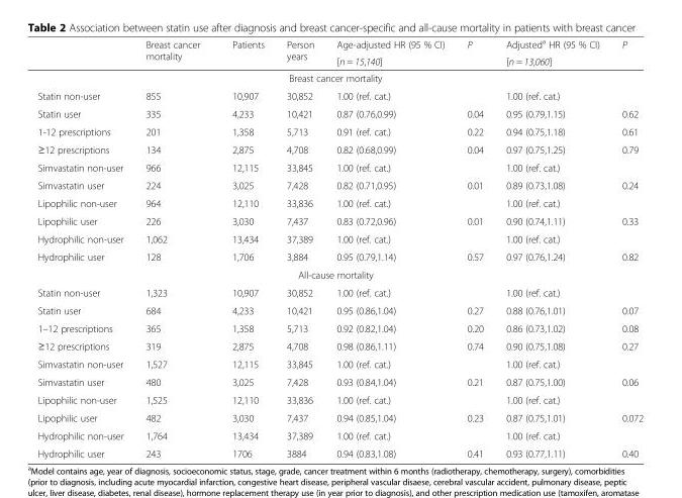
<table><thead><tr><td rowspan="2"></td><td rowspan="2">Breast cancer mortality</td><td rowspan="2">Patients</td><td rowspan="2">Person years</td><td rowspan="2">Age-adjusted HR (95 % CI) [n = 15,140]</td><td rowspan="2">P</td><td rowspan="2">Adjusted<sup>a</sup> HR (95 % CI) [n = 13,060]</td><td rowspan="2">P</td></tr><tr></tr></thead><tbody><tr><td colspan="8">Breast cancer mortality</td></tr><tr><td>Statin non-user</td><td>855</td><td>10,907</td><td>30,852</td><td>1.00 (ref. cat.)</td><td></td><td>1.00 (ref. cat.)</td><td></td></tr><tr><td>Statin user</td><td>335</td><td>4,233</td><td>10,421</td><td>0.87 (0.76,0.99)</td><td>0.04</td><td>0.95 (0.79,1.15)</td><td>0.62</td></tr><tr><td>1-12 prescriptions</td><td>201</td><td>1,358</td><td>5,713</td><td>0.91 (ref. cat.)</td><td>0.22</td><td>0.94 (0.75,1.18)</td><td>0.61</td></tr><tr><td>≥12 prescriptions</td><td>134</td><td>2,875</td><td>4,708</td><td>0.82 (0.68,0.99)</td><td>0.04</td><td>0.97 (0.75,1.25)</td><td>0.79</td></tr><tr><td>Simvastatin non-user</td><td>966</td><td>12,115</td><td>33,845</td><td>1.00 (ref. cat.)</td><td></td><td>1.00 (ref. cat.)</td><td></td></tr><tr><td>Simvastatin user</td><td>224</td><td>3,025</td><td>7,428</td><td>0.82 (0.71,0.95)</td><td>0.01</td><td>0.89 (0.73,1.08)</td><td>0.24</td></tr><tr><td>Lipophilic non-user</td><td>964</td><td>12,110</td><td>33,836</td><td>1.00 (ref. cat.)</td><td></td><td>1.00 (ref. cat.)</td><td></td></tr><tr><td>Lipophilic user</td><td>226</td><td>3,030</td><td>7,437</td><td>0.83 (0.72,0.96)</td><td>0.01</td><td>0.90 (0.74,1.11)</td><td>0.33</td></tr><tr><td>Hydrophilic non-user</td><td>1,062</td><td>13,434</td><td>37,389</td><td>1.00 (ref. cat.)</td><td></td><td>1.00 (ref. cat.)</td><td></td></tr><tr><td>Hydrophilic user</td><td>128</td><td>1,706</td><td>3,884</td><td>0.95 (0.79,1.14)</td><td>0.57</td><td>0.97 (0.76,1.24)</td><td>0.82</td></tr><tr><td colspan="8">All-cause mortality</td></tr><tr><td>Statin non-user</td><td>1,323</td><td>10,907</td><td>30,852</td><td>1.00 (ref. cat.)</td><td></td><td>1.00 (ref. cat.)</td><td></td></tr><tr><td>Statin user</td><td>684</td><td>4,233</td><td>10,421</td><td>0.95 (0.86,1.04)</td><td>0.27</td><td>0.88 (0.76,1.01)</td><td>0.07</td></tr><tr><td>1–12 prescriptions</td><td>365</td><td>1,358</td><td>5,713</td><td>0.92 (0.82,1.04)</td><td>0.20</td><td>0.86 (0.73,1.02)</td><td>0.08</td></tr><tr><td>≥12 prescriptions</td><td>319</td><td>2,875</td><td>4,708</td><td>0.98 (0.86,1.11)</td><td>0.74</td><td>0.90 (0.75,1.08)</td><td>0.27</td></tr><tr><td>Simvastatin non-user</td><td>1,527</td><td>12,115</td><td>33,845</td><td>1.00 (ref. cat.)</td><td></td><td>1.00 (ref. cat.)</td><td></td></tr><tr><td>Simvastatin user</td><td>480</td><td>3,025</td><td>7,428</td><td>0.93 (0.84,1.04)</td><td>0.21</td><td>0.87 (0.75,1.00)</td><td>0.06</td></tr><tr><td>Lipophilic non-user</td><td>1,525</td><td>12,110</td><td>33,836</td><td>1.00 (ref. cat.)</td><td></td><td>1.00 (ref. cat.)</td><td></td></tr><tr><td>Lipophilic user</td><td>482</td><td>3,030</td><td>7,437</td><td>0.94 (0.85,1.04)</td><td>0.23</td><td>0.87 (0.75,1.01)</td><td>0.072</td></tr><tr><td>Hydrophilic non-user</td><td>1,764</td><td>13,434</td><td>37,389</td><td>1.00 (ref. cat.)</td><td></td><td>1.00 (ref. cat.)</td><td></td></tr><tr><td>Hydrophilic user</td><td>243</td><td>1706</td><td>3884</td><td>0.94 (0.83,1.08)</td><td>0.41</td><td>0.93 (0.77,1.11)</td><td>0.40</td></tr></tbody></table>